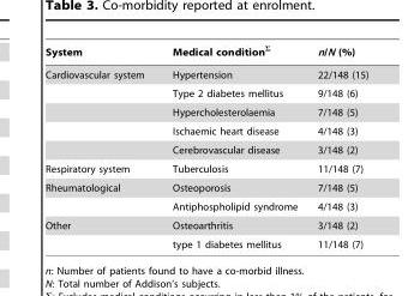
<table><thead><tr><td>System</td><td>Medical condition<sup>Σ</sup></td><td>n/N (%)</td></tr></thead><tbody><tr><td rowspan="5">Cardiovascular system</td><td>Hypertension</td><td>22/148 (15)</td></tr><tr><td>Type 2 diabetes mellitus</td><td>9/148 (6)</td></tr><tr><td>Hypercholesterolaemia</td><td>7/148 (5)</td></tr><tr><td>Ischaemic heart disease</td><td>4/148 (3)</td></tr><tr><td>Cerebrovascular disease</td><td>3/148 (2)</td></tr><tr><td>Respiratory system</td><td>Tuberculosis</td><td>11/148 (7)</td></tr><tr><td rowspan="2">Rheumatological</td><td>Osteoporosis</td><td>7/148 (5)</td></tr><tr><td>Antiphospholipid syndrome</td><td>4/148 (3)</td></tr><tr><td rowspan="2">Other</td><td>Osteoarthritis</td><td>3/148 (2)</td></tr><tr><td>type 1 diabetes mellitus</td><td>11/148 (7)</td></tr></tbody></table>